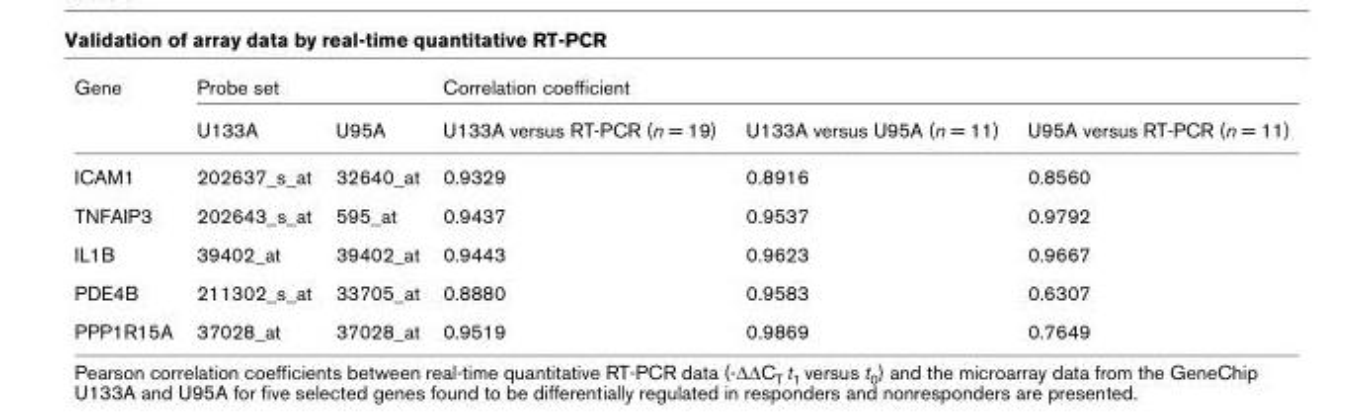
<table><thead><tr><td rowspan="2">Gene</td><td colspan="2">Probe set</td><td colspan="3">Correlation coefficient</td></tr><tr><td>U133A</td><td>U95A</td><td>U133A versus RT-PCR (n = 19)</td><td>U133A versus U95A (n = 11)</td><td>U95A versus RT-PCR (n = 11)</td></tr></thead><tbody><tr><td>ICAM1</td><td>202637_s_at</td><td>32640_at</td><td>0.9329</td><td>0.8916</td><td>0.8560</td></tr><tr><td>TNFAIP3</td><td>202643_s_at</td><td>595_at</td><td>0.9437</td><td>0.9537</td><td>0.9792</td></tr><tr><td>IL1B</td><td>39402_at</td><td>39402_at</td><td>0.9443</td><td>0.9623</td><td>0.9667</td></tr><tr><td>PDE4B</td><td>211302_s_at</td><td>33705_at</td><td>0.8880</td><td>0.9583</td><td>0.6307</td></tr><tr><td>PPP1R15A</td><td>37028_at</td><td>37028_at</td><td>0.9519</td><td>0.9869</td><td>0.7649</td></tr></tbody></table>